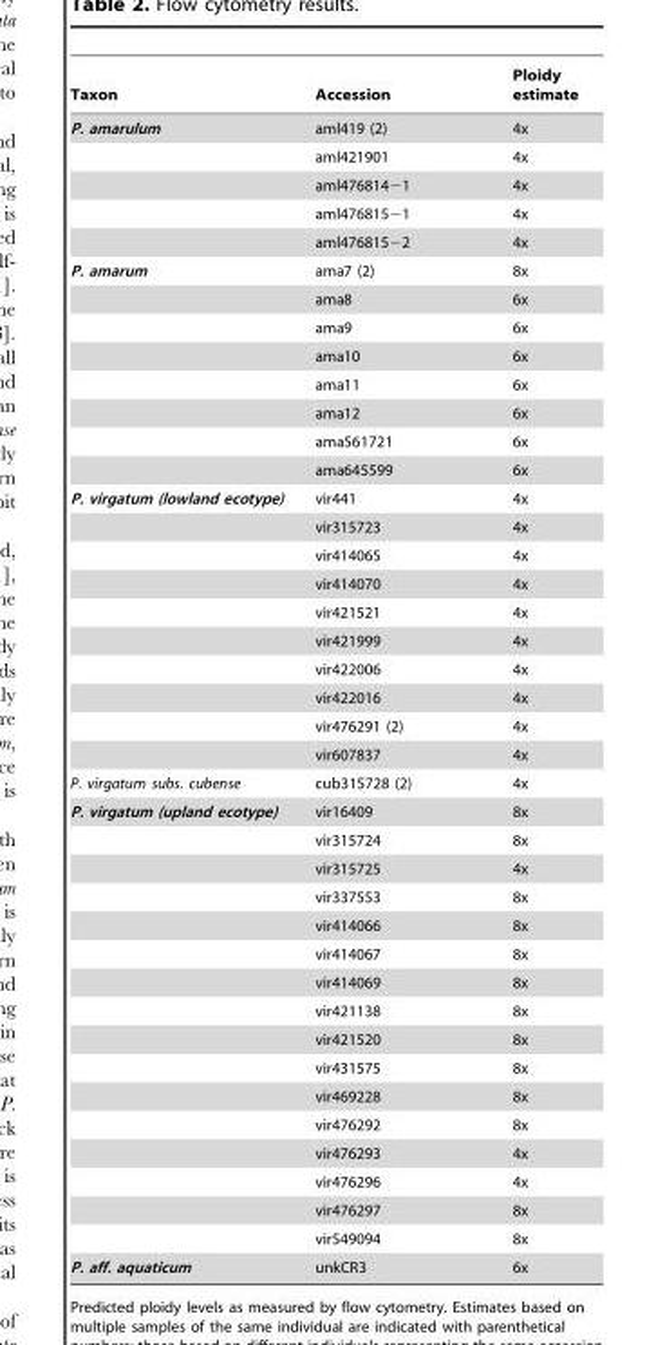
<table><thead><tr><td>Taxon</td><td>Accession</td><td>Ploidy estimate</td></tr></thead><tbody><tr><td rowspan="5">P. amarulum</td><td>aml419 (2)</td><td>4x</td></tr><tr><td>aml421901</td><td>4x</td></tr><tr><td>aml476814−1</td><td>4x</td></tr><tr><td>aml476815−1</td><td>4x</td></tr><tr><td>aml476815−2</td><td>4x</td></tr><tr><td rowspan="8">P. amarum</td><td>ama7 (2)</td><td>8x</td></tr><tr><td>ama8</td><td>6x</td></tr><tr><td>ama9</td><td>6x</td></tr><tr><td>ama10</td><td>6x</td></tr><tr><td>ama11</td><td>6x</td></tr><tr><td>ama12</td><td>6x</td></tr><tr><td>ama561721</td><td>6x</td></tr><tr><td>ama645599</td><td>6x</td></tr><tr><td rowspan="10">P. virgatum (lowland ecotype)</td><td>vir441</td><td>4x</td></tr><tr><td>vir315723</td><td>4x</td></tr><tr><td>vir414065</td><td>4x</td></tr><tr><td>vir414070</td><td>4x</td></tr><tr><td>vir421521</td><td>4x</td></tr><tr><td>vir421999</td><td>4x</td></tr><tr><td>vir422006</td><td>4x</td></tr><tr><td>vir422016</td><td>4x</td></tr><tr><td>vir476291 (2)</td><td>4x</td></tr><tr><td>vir607837</td><td>4x</td></tr><tr><td>P. virgatum subs. cubense</td><td>cub315728 (2)</td><td>4x</td></tr><tr><td rowspan="16">P. virgatum (upland ecotype)</td><td>vir16409</td><td>8x</td></tr><tr><td>vir315724</td><td>8x</td></tr><tr><td>vir315725</td><td>4x</td></tr><tr><td>vir337553</td><td>8x</td></tr><tr><td>vir414066</td><td>8x</td></tr><tr><td>vir414067</td><td>8x</td></tr><tr><td>vir414069</td><td>8x</td></tr><tr><td>vir421138</td><td>8x</td></tr><tr><td>vir421520</td><td>8x</td></tr><tr><td>vir431575</td><td>8x</td></tr><tr><td>vir469228</td><td>8x</td></tr><tr><td>vir476292</td><td>8x</td></tr><tr><td>vir476293</td><td>4x</td></tr><tr><td>vir476296</td><td>4x</td></tr><tr><td>vir476297</td><td>8x</td></tr><tr><td>vir549094</td><td>8x</td></tr><tr><td>P. aff. aquaticum</td><td>unkCR3</td><td>6x</td></tr></tbody></table>